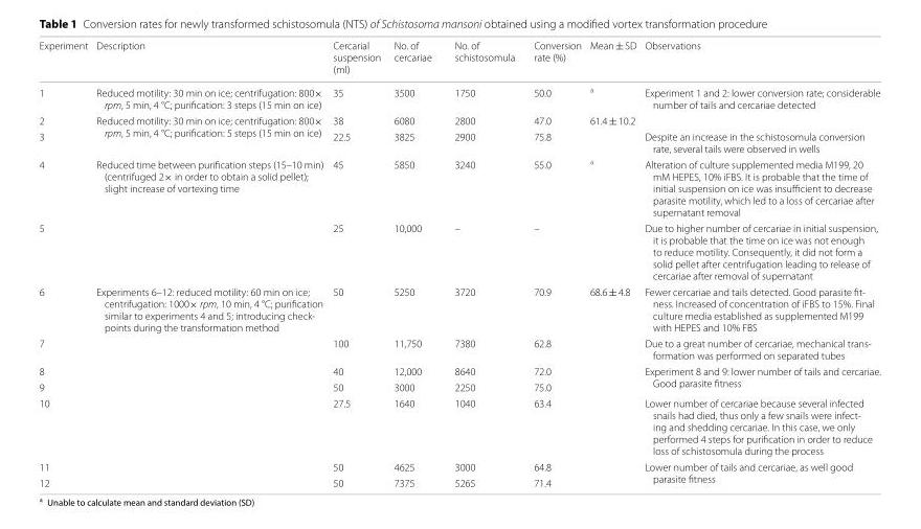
<table><thead><tr><td>Experiment</td><td>Description</td><td>Cercarial suspension (ml)</td><td>No. of cercariae</td><td>No. of schistosomula</td><td>Conversion rate (%)</td><td>Mean ± SD</td><td>Observations</td></tr></thead><tbody><tr><td>1</td><td>Reduced motility: 30 min on ice; centrifugation: 800× rpm, 5 min, 4 °C; purification: 3 steps (15 min on ice)</td><td>35</td><td>3500</td><td>1750</td><td>50.0</td><td><sup>a</sup></td><td rowspan="2">Experiment 1 and 2: lower conversion rate; considerable number of tails and cercariae detected</td></tr><tr><td>2</td><td rowspan="2">Reduced motility: 30 min on ice; centrifugation: 800× rpm, 5 min, 4 °C; purification: 5 steps (15 min on ice)</td><td>38</td><td>6080</td><td>2800</td><td>47.0</td><td rowspan="2">61.4 ± 10.2</td></tr><tr><td>3</td><td>22.5</td><td>3825</td><td>2900</td><td>75.8</td><td>Despite an increase in the schistosomula conversion rate, several tails were observed in wells</td></tr><tr><td>4</td><td rowspan="2">Reduced time between purification steps (15–10 min) (centrifuged 2× in order to obtain a solid pellet); slight increase of vortexing time</td><td>45</td><td>5850</td><td>3240</td><td>55.0</td><td rowspan="2"><sup>a</sup></td><td>Alteration of culture supplemented media M199, 20 mM HEPES, 10% iFBS. It is probable that the time of initial suspension on ice was insufficient to decrease parasite motility, which led to a loss of cercariae after supernatant removal</td></tr><tr><td>5</td><td>25</td><td>10,000</td><td>–</td><td>–</td><td>Due to higher number of cercariae in initial suspension, it is probable that the time on ice was not enough to reduce motility. Consequently, it did not form a solid pellet after centrifugation leading to release of cercariae after removal of supernatant</td></tr><tr><td>6</td><td rowspan="7">Experiments 6–12: reduced motility: 60 min on ice; centrifugation: 1000× rpm, 10 min, 4 °C; purification similar to experiments 4 and 5; introducing check- points during the transformation method</td><td>50</td><td>5250</td><td>3720</td><td>70.9</td><td rowspan="7">68.6 ± 4.8</td><td>Fewer cercariae and tails detected. Good parasite fit- ness. Increased of concentration of iFBS to 15%. Final culture media established as supplemented M199 with HEPES and 10% FBS</td></tr><tr><td>7</td><td>100</td><td>11,750</td><td>7380</td><td>62.8</td><td>Due to a great number of cercariae, mechanical trans- formation was performed on separated tubes</td></tr><tr><td>8</td><td>40</td><td>12,000</td><td>8640</td><td>72.0</td><td rowspan="2">Experiment 8 and 9: lower number of tails and cercariae. Good parasite fitness</td></tr><tr><td>9</td><td>50</td><td>3000</td><td>2250</td><td>75.0</td></tr><tr><td>10</td><td>27.5</td><td>1640</td><td>1040</td><td>63.4</td><td>Lower number of cercariae because several infected snails had died, thus only a few snails were infect- ing and shedding cercariae. In this case, we only performed 4 steps for purification in order to reduce loss of schistosomula during the process</td></tr><tr><td>11</td><td>50</td><td>4625</td><td>3000</td><td>64.8</td><td rowspan="2">Lower number of tails and cercariae, as well good parasite fitness</td></tr><tr><td>12</td><td>50</td><td>7375</td><td>5265</td><td>71.4</td></tr></tbody></table>